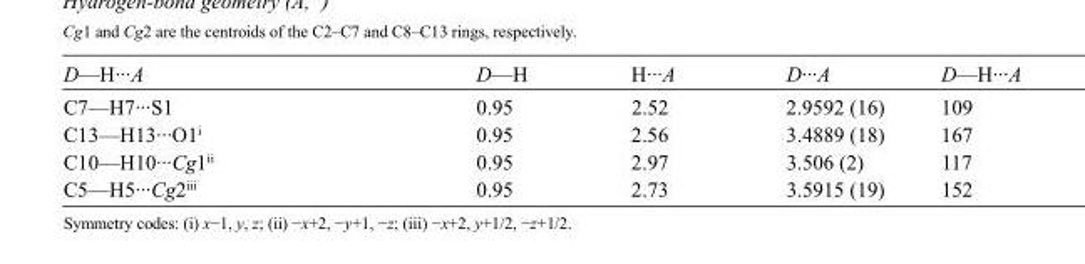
<table><tbody><tr><td>D—H···A</td><td>D—H</td><td>H···A</td><td>D···A</td><td>D—H···A</td></tr><tr><td>C7—H7···S1</td><td>0.95</td><td>2.52</td><td>2.9592 (16)</td><td>109</td></tr><tr><td>C13—H13···O1<sup>i</sup></td><td>0.95</td><td>2.56</td><td>3.4889 (18)</td><td>167</td></tr><tr><td>C10—H10···Cg1<sup>ii</sup></td><td>0.95</td><td>2.97</td><td>3.506 (2)</td><td>117</td></tr><tr><td>C5—H5···Cg2<sup>iii</sup></td><td>0.95</td><td>2.73</td><td>3.5915 (19)</td><td>152</td></tr></tbody></table>